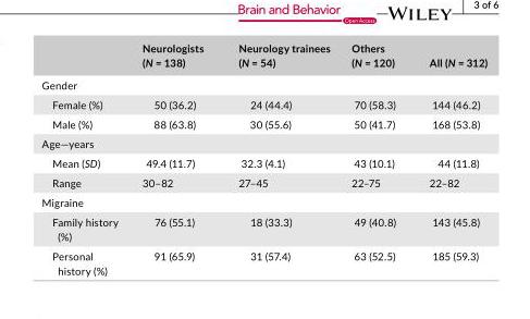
<table><thead><tr><td></td><td>Neurologists (N = 138)</td><td>Neurology trainees (N = 54)</td><td>Others (N = 120)</td><td>All (N = 312)</td></tr></thead><tbody><tr><td colspan="5">Gender</td></tr><tr><td>Female (%)</td><td>50 (36.2)</td><td>24 (44.4)</td><td>70 (58.3)</td><td>144 (46.2)</td></tr><tr><td>Male (%)</td><td>88 (63.8)</td><td>30 (55.6)</td><td>50 (41.7)</td><td>168 (53.8)</td></tr><tr><td colspan="5">Age—years</td></tr><tr><td>Mean (SD)</td><td>49.4 (11.7)</td><td>32.3 (4.1)</td><td>43 (10.1)</td><td>44 (11.8)</td></tr><tr><td>Range</td><td>30–82</td><td>27–45</td><td>22–75</td><td>22–82</td></tr><tr><td colspan="5">Migraine</td></tr><tr><td>Family history (%)</td><td>76 (55.1)</td><td>18 (33.3)</td><td>49 (40.8)</td><td>143 (45.8)</td></tr><tr><td>Personal history (%)</td><td>91 (65.9)</td><td>31 (57.4)</td><td>63 (52.5)</td><td>185 (59.3)</td></tr></tbody></table>